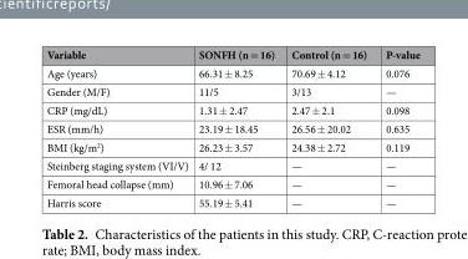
<table><thead><tr><td>Variable</td><td>SONFH (n = 16)</td><td>Control (n = 16)</td><td>P-value</td></tr></thead><tbody><tr><td>Age (years)</td><td>66.31 ± 8.25</td><td>70.69 ± 4.12</td><td>0.076</td></tr><tr><td>Gender (M/F)</td><td>11/5</td><td>3/13</td><td>—</td></tr><tr><td>CRP (mg/dL)</td><td>1.31 ± 2.47</td><td>2.47 ± 2.1</td><td>0.098</td></tr><tr><td>ESR (mm/h)</td><td>23.19 ± 18.45</td><td>26.56 ± 20.02</td><td>0.635</td></tr><tr><td>BMI (kg/m<sup>2</sup>)</td><td>26.23 ± 3.57</td><td>24.38 ± 2.72</td><td>0.119</td></tr><tr><td>Steinberg staging system (VI/V)</td><td>4/ 12</td><td>—</td><td>—</td></tr><tr><td>Femoral head collapse (mm)</td><td>10.96 ± 7.06</td><td>—</td><td>—</td></tr><tr><td>Harris score</td><td>55.19 ± 5.41</td><td>—</td><td>—</td></tr></tbody></table>